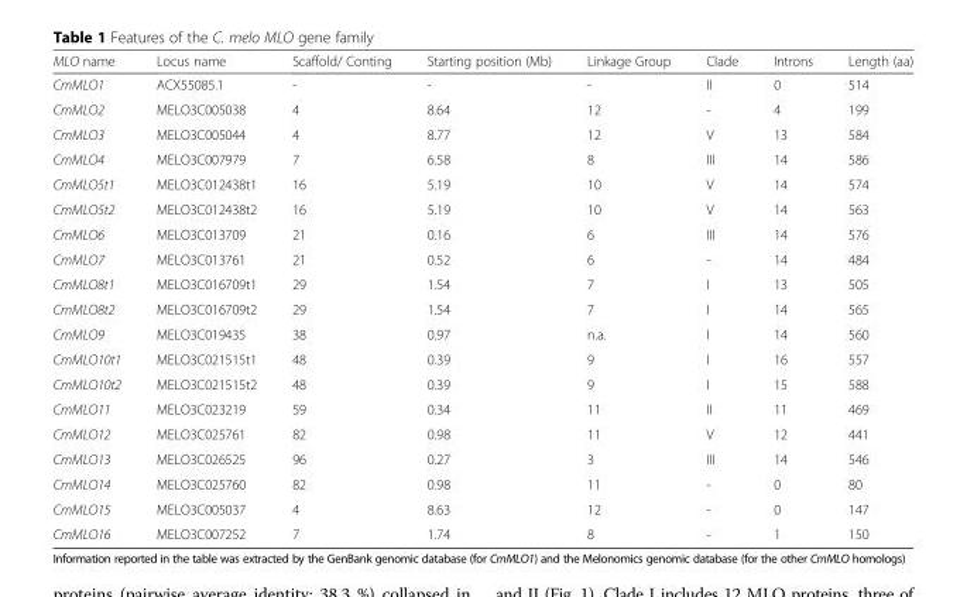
<table><thead><tr><td>MLO name</td><td>Locus name</td><td>Scaffold/ Conting</td><td>Starting position (Mb)</td><td>Linkage Group</td><td>Clade</td><td>Introns</td><td>Length (aa)</td></tr></thead><tbody><tr><td>CmMLO1</td><td>ACX55085.1</td><td>-</td><td>-</td><td>-</td><td>II</td><td>0</td><td>514</td></tr><tr><td>CmMLO2</td><td>MELO3C005038</td><td>4</td><td>8.64</td><td>12</td><td>-</td><td>4</td><td>199</td></tr><tr><td>CmMLO3</td><td>MELO3C005044</td><td>4</td><td>8.77</td><td>12</td><td>V</td><td>13</td><td>584</td></tr><tr><td>CmMLO4</td><td>MELO3C007979</td><td>7</td><td>6.58</td><td>8</td><td>III</td><td>14</td><td>586</td></tr><tr><td>CmMLO5t1</td><td>MELO3C012438t1</td><td>16</td><td>5.19</td><td>10</td><td>V</td><td>14</td><td>574</td></tr><tr><td>CmMLO5t2</td><td>MELO3C012438t2</td><td>16</td><td>5.19</td><td>10</td><td>V</td><td>14</td><td>563</td></tr><tr><td>CmMLO6</td><td>MELO3C013709</td><td>21</td><td>0.16</td><td>6</td><td>III</td><td>14</td><td>576</td></tr><tr><td>CmMLO7</td><td>MELO3C013761</td><td>21</td><td>0.52</td><td>6</td><td>-</td><td>14</td><td>484</td></tr><tr><td>CmMLO8t1</td><td>MELO3C016709t1</td><td>29</td><td>1.54</td><td>7</td><td>I</td><td>13</td><td>505</td></tr><tr><td>CmMLO8t2</td><td>MELO3C016709t2</td><td>29</td><td>1.54</td><td>7</td><td>I</td><td>14</td><td>565</td></tr><tr><td>CmMLO9</td><td>MELO3C019435</td><td>38</td><td>0.97</td><td>n.a.</td><td>I</td><td>14</td><td>560</td></tr><tr><td>CmMLO10t1</td><td>MELO3C021515t1</td><td>48</td><td>0.39</td><td>9</td><td>I</td><td>16</td><td>557</td></tr><tr><td>CmMLO10t2</td><td>MELO3C021515t2</td><td>48</td><td>0.39</td><td>9</td><td>I</td><td>15</td><td>588</td></tr><tr><td>CmMLO11</td><td>MELO3C023219</td><td>59</td><td>0.34</td><td>11</td><td>II</td><td>11</td><td>469</td></tr><tr><td>CmMLO12</td><td>MELO3C025761</td><td>82</td><td>0.98</td><td>11</td><td>V</td><td>12</td><td>441</td></tr><tr><td>CmMLO13</td><td>MELO3C026525</td><td>96</td><td>0.27</td><td>3</td><td>III</td><td>14</td><td>546</td></tr><tr><td>CmMLO14</td><td>MELO3C025760</td><td>82</td><td>0.98</td><td>11</td><td>-</td><td>0</td><td>80</td></tr><tr><td>CmMLO15</td><td>MELO3C005037</td><td>4</td><td>8.63</td><td>12</td><td>-</td><td>0</td><td>147</td></tr><tr><td>CmMLO16</td><td>MELO3C007252</td><td>7</td><td>1.74</td><td>8</td><td>-</td><td>1</td><td>150</td></tr></tbody></table>